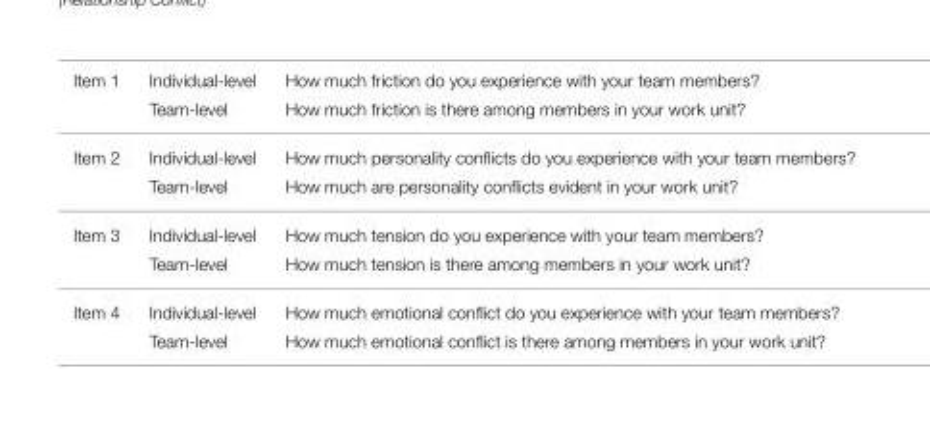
<table><tbody><tr><td rowspan="2">Item 1</td><td>Individual-level</td><td>How much friction do you experience with your team members?</td></tr><tr><td>Team-level</td><td>How much friction is there among members in your work unit?</td></tr><tr><td rowspan="2">Item 2</td><td>Individual-level</td><td>How much personality conflicts do you experience with your team members?</td></tr><tr><td>Team-level</td><td>How much are personality conflicts evident in your work unit?</td></tr><tr><td rowspan="2">Item 3</td><td>Individual-level</td><td>How much tension do you experience with your team members?</td></tr><tr><td>Team-level</td><td>How much tension is there among members in your work unit?</td></tr><tr><td rowspan="2">Item 4</td><td>Individual-level</td><td>How much emotional conflict do you experience with your team members?</td></tr><tr><td>Team-level</td><td>How much emotional conflict is there among members in your work unit?</td></tr></tbody></table>